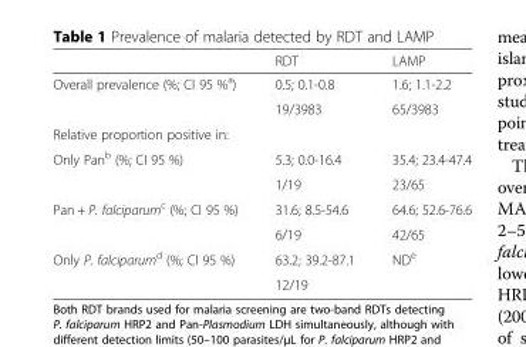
<table><thead><tr><td></td><td>RDT</td><td>LAMP</td></tr></thead><tbody><tr><td rowspan="2">Overall prevalence (%; CI 95 %<sup>a</sup>)</td><td>0.5; 0.1-0.8</td><td>1.6; 1.1-2.2</td></tr><tr><td>19/3983</td><td>65/3983</td></tr><tr><td colspan="3">Relative proportion positive in:</td></tr><tr><td rowspan="2">Only Pan<sup>b</sup> (%; CI 95 %)</td><td>5.3; 0.0-16.4</td><td>35.4; 23.4-47.4</td></tr><tr><td>1/19</td><td>23/65</td></tr><tr><td rowspan="2">Pan + P. falciparum<sup>c</sup> (%; CI 95 %)</td><td>31.6; 8.5-54.6</td><td>64.6; 52.6-76.6</td></tr><tr><td>6/19</td><td>42/65</td></tr><tr><td rowspan="2">Only P. falciparum<sup>d</sup> (%; CI 95 %)</td><td>63.2; 39.2-87.1</td><td>ND<sup>e</sup></td></tr><tr><td>12/19</td><td></td></tr></tbody></table>